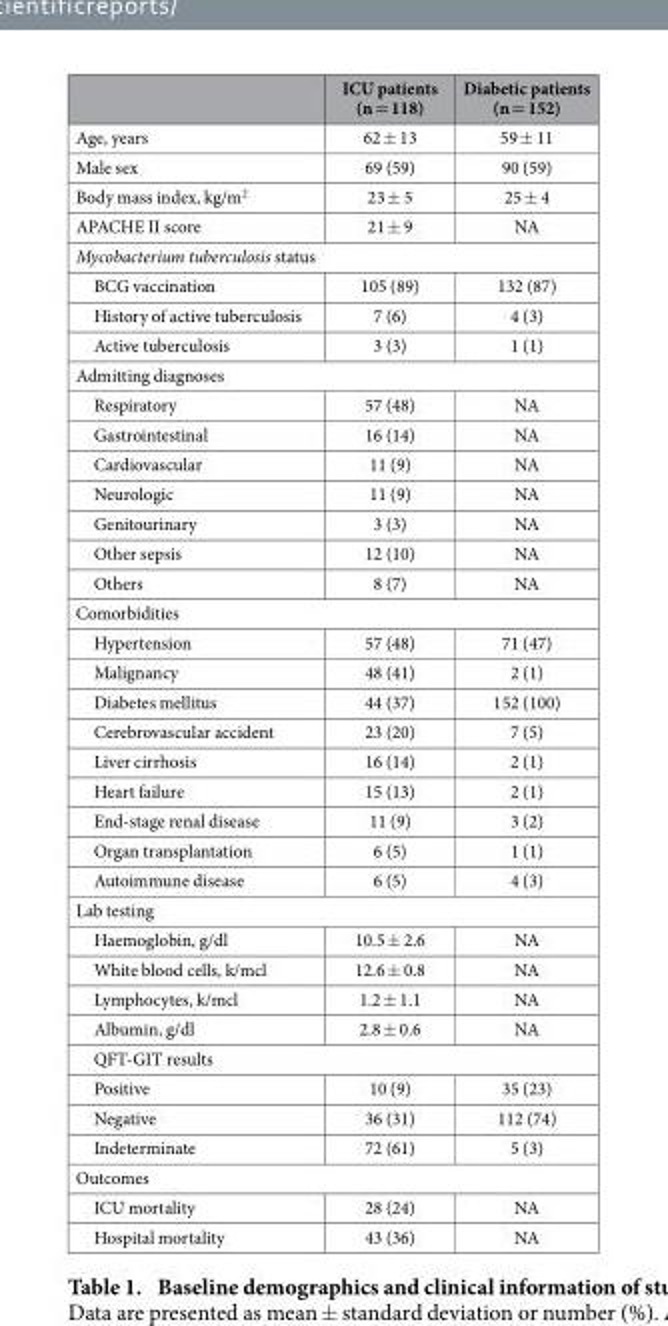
<table><thead><tr><td></td><td>ICU patients (n = 118)</td><td>Diabetic patients (n = 152)</td></tr></thead><tbody><tr><td>Age, years</td><td>62 ± 13</td><td>59 ± 11</td></tr><tr><td>Male sex</td><td>69 (59)</td><td>90 (59)</td></tr><tr><td>Body mass index, kg/m<sup>2</sup></td><td>23 ± 5</td><td>25 ± 4</td></tr><tr><td>APACHE II score</td><td>21 ± 9</td><td>NA</td></tr><tr><td colspan="3">Mycobacterium tuberculosis status</td></tr><tr><td>BCG vaccination</td><td>105 (89)</td><td>132 (87)</td></tr><tr><td>History of active tuberculosis</td><td>7 (6)</td><td>4 (3)</td></tr><tr><td>Active tuberculosis</td><td>3 (3)</td><td>1 (1)</td></tr><tr><td colspan="3">Admitting diagnoses</td></tr><tr><td>Respiratory</td><td>57 (48)</td><td>NA</td></tr><tr><td>Gastrointestinal</td><td>16 (14)</td><td>NA</td></tr><tr><td>Cardiovascular</td><td>11 (9)</td><td>NA</td></tr><tr><td>Neurologic</td><td>11 (9)</td><td>NA</td></tr><tr><td>Genitourinary</td><td>3 (3)</td><td>NA</td></tr><tr><td>Other sepsis</td><td>12 (10)</td><td>NA</td></tr><tr><td>Others</td><td>8 (7)</td><td>NA</td></tr><tr><td colspan="3">Comorbidities</td></tr><tr><td>Hypertension</td><td>57 (48)</td><td>71 (47)</td></tr><tr><td>Malignancy</td><td>48 (41)</td><td>2 (1)</td></tr><tr><td>Diabetes mellitus</td><td>44 (37)</td><td>152 (100)</td></tr><tr><td>Cerebrovascular accident</td><td>23 (20)</td><td>7 (5)</td></tr><tr><td>Liver cirrhosis</td><td>16 (14)</td><td>2 (1)</td></tr><tr><td>Heart failure</td><td>15 (13)</td><td>2 (1)</td></tr><tr><td>End-stage renal disease</td><td>11 (9)</td><td>3 (2)</td></tr><tr><td>Organ transplantation</td><td>6 (5)</td><td>1 (1)</td></tr><tr><td>Autoimmune disease</td><td>6 (5)</td><td>4 (3)</td></tr><tr><td colspan="3">Lab testing</td></tr><tr><td>Haemoglobin, g/dl</td><td>10.5 ± 2.6</td><td>NA</td></tr><tr><td>White blood cells, k/mcl</td><td>12.6 ± 0.8</td><td>NA</td></tr><tr><td>Lymphocytes, k/mcl</td><td>1.2 ± 1.1</td><td>NA</td></tr><tr><td>Albumin, g/dl</td><td>2.8 ± 0.6</td><td>NA</td></tr><tr><td colspan="3">QFT-GIT results</td></tr><tr><td>Positive</td><td>10 (9)</td><td>35 (23)</td></tr><tr><td>Negative</td><td>36 (31)</td><td>112 (74)</td></tr><tr><td>Indeterminate</td><td>72 (61)</td><td>5 (3)</td></tr><tr><td colspan="3">Outcomes</td></tr><tr><td>ICU mortality</td><td>28 (24)</td><td>NA</td></tr><tr><td>Hospital mortality</td><td>43 (36)</td><td>NA</td></tr></tbody></table>